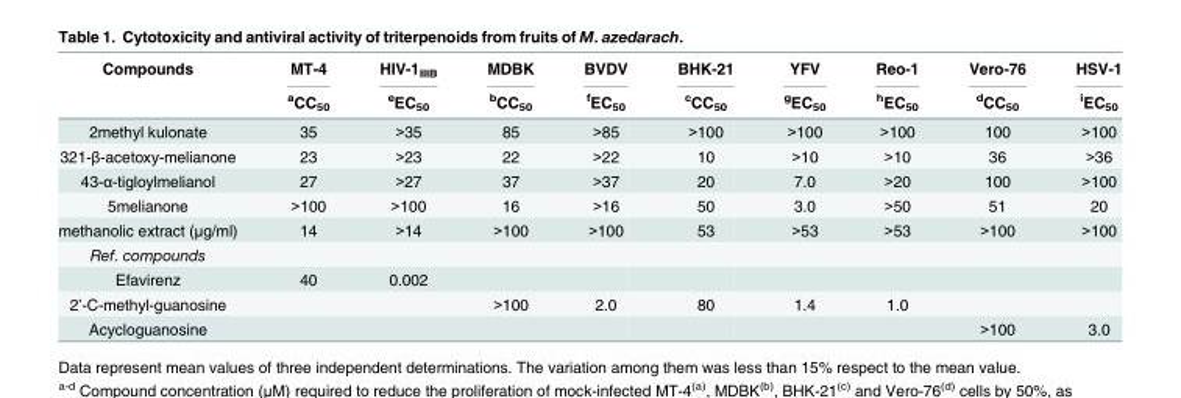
<table><thead><tr><td rowspan="2">Compounds</td><td rowspan="2">MT-4 <sup>a</sup>CC<sub>50</sub></td><td rowspan="2">HIV-1<sub>IIIB</sub> <sup>e</sup>EC<sub>50</sub></td><td rowspan="2">MDBK <sup>b</sup>CC<sub>50</sub></td><td rowspan="2">BVDV <sup>f</sup>EC<sub>50</sub></td><td rowspan="2">BHK-21 <sup>c</sup>CC<sub>50</sub></td><td rowspan="2">YFV <sup>g</sup>EC<sub>50</sub></td><td rowspan="2">Reo-1 <sup>h</sup>EC<sub>50</sub></td><td rowspan="2">Vero-76 <sup>d</sup>CC<sub>50</sub></td><td rowspan="2">HSV-1 <sup>i</sup>EC<sub>50</sub></td></tr><tr></tr></thead><tbody><tr><td>2methyl kulonate</td><td>35</td><td>&gt;35</td><td>85</td><td>&gt;85</td><td>&gt;100</td><td>&gt;100</td><td>&gt;100</td><td>100</td><td>&gt;100</td></tr><tr><td>321-β-acetoxy-melianone</td><td>23</td><td>&gt;23</td><td>22</td><td>&gt;22</td><td>10</td><td>&gt;10</td><td>&gt;10</td><td>36</td><td>&gt;36</td></tr><tr><td>43-α-tigloylmelianol</td><td>27</td><td>&gt;27</td><td>37</td><td>&gt;37</td><td>20</td><td>7.0</td><td>&gt;20</td><td>100</td><td>&gt;100</td></tr><tr><td>5melianone</td><td>&gt;100</td><td>&gt;100</td><td>16</td><td>&gt;16</td><td>50</td><td>3.0</td><td>&gt;50</td><td>51</td><td>20</td></tr><tr><td>methanolic extract (μg/ml)</td><td>14</td><td>&gt;14</td><td>&gt;100</td><td>&gt;100</td><td>53</td><td>&gt;53</td><td>&gt;53</td><td>&gt;100</td><td>&gt;100</td></tr><tr><td colspan="10">Ref. compounds</td></tr><tr><td>Efavirenz</td><td>40</td><td>0.002</td><td></td><td></td><td></td><td></td><td></td><td></td><td></td></tr><tr><td>2’-C-methyl-guanosine</td><td></td><td></td><td>&gt;100</td><td>2.0</td><td>80</td><td>1.4</td><td>1.0</td><td></td><td></td></tr><tr><td>Acycloguanosine</td><td></td><td></td><td></td><td></td><td></td><td></td><td></td><td>&gt;100</td><td>3.0</td></tr></tbody></table>